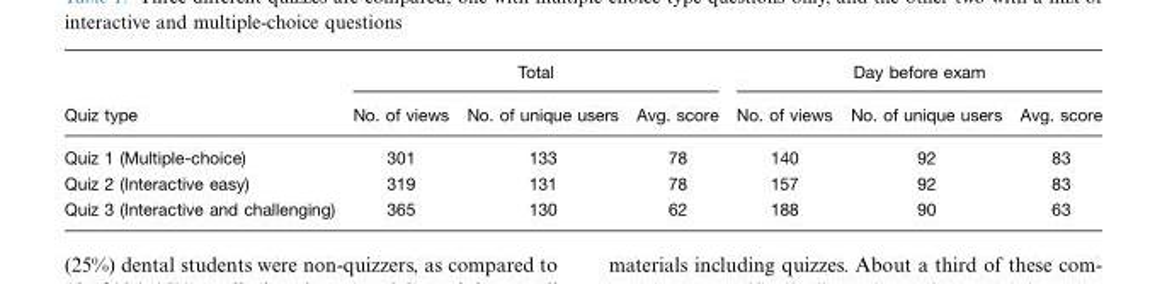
<table><thead><tr><td rowspan="2">Quiz type</td><td colspan="3">Total</td><td colspan="3">Day before exam</td></tr><tr><td>No. of views</td><td>No. of unique users</td><td>Avg. score</td><td>No. of views</td><td>No. of unique users</td><td>Avg. score</td></tr></thead><tbody><tr><td>Quiz 1 (Multiple-choice)</td><td>301</td><td>133</td><td>78</td><td>140</td><td>92</td><td>83</td></tr><tr><td>Quiz 2 (Interactive easy)</td><td>319</td><td>131</td><td>78</td><td>157</td><td>92</td><td>83</td></tr><tr><td>Quiz 3 (Interactive and challenging)</td><td>365</td><td>130</td><td>62</td><td>188</td><td>90</td><td>63</td></tr></tbody></table>